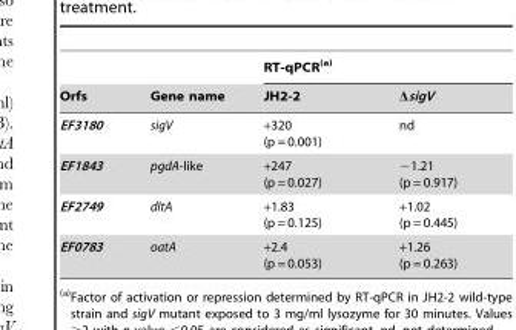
<table><thead><tr><td rowspan="2">Orfs</td><td rowspan="2">Gene name</td><td colspan="2">RT-qPCR(a)</td></tr><tr><td>JH2-2</td><td>ΔsigV</td></tr></thead><tbody><tr><td>EF3180</td><td>sigV</td><td>+320 (p = 0.001)</td><td>nd</td></tr><tr><td>EF1843</td><td>pgdA-like</td><td>+247 (p = 0.027)</td><td>−1.21 (p = 0.917)</td></tr><tr><td>EF2749</td><td>dltA</td><td>+1.83 (p = 0.125)</td><td>+1.02 (p = 0.445)</td></tr><tr><td>EF0783</td><td>oatA</td><td>+2.4 (p = 0.053)</td><td>+1.26 (p = 0.263)</td></tr></tbody></table>